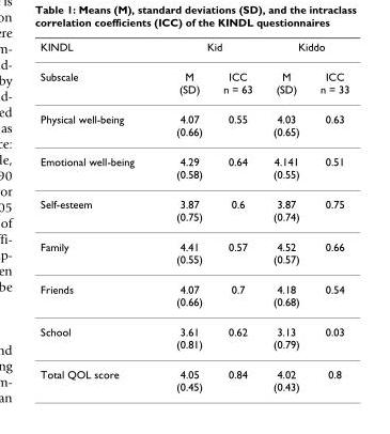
<table><thead><tr><td rowspan="2">KINDL Subscale</td><td colspan="2">Kid</td><td colspan="2">Kiddo</td></tr><tr><td>M (SD)</td><td>ICC n = 63</td><td>M (SD)</td><td>ICC n = 33</td></tr></thead><tbody><tr><td>Physical well-being</td><td>4.07 (0.66)</td><td>0.55</td><td>4.03 (0.65)</td><td>0.63</td></tr><tr><td>Emotional well-being</td><td>4.29 (0.58)</td><td>0.64</td><td>4.141 (0.55)</td><td>0.51</td></tr><tr><td>Self-esteem</td><td>3.87 (0.75)</td><td>0.6</td><td>3.87 (0.74)</td><td>0.75</td></tr><tr><td>Family</td><td>4.41 (0.55)</td><td>0.57</td><td>4.52 (0.57)</td><td>0.66</td></tr><tr><td>Friends</td><td>4.07 (0.66)</td><td>0.7</td><td>4.18 (0.68)</td><td>0.54</td></tr><tr><td>School</td><td>3.61 (0.81)</td><td>0.62</td><td>3.13 (0.79)</td><td>0.03</td></tr><tr><td>Total QOL score</td><td>4.05 (0.45)</td><td>0.84</td><td>4.02 (0.43)</td><td>0.8</td></tr></tbody></table>